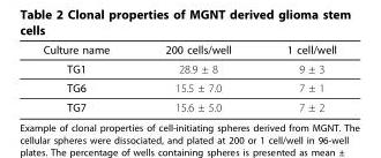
<table><thead><tr><td>Culture name</td><td>200 cells/well</td><td>1 cell/well</td></tr></thead><tbody><tr><td>TG1</td><td>28.9 ± 8</td><td>9 ± 3</td></tr><tr><td>TG6</td><td>15.5 ± 7.0</td><td>7 ± 1</td></tr><tr><td>TG7</td><td>15.6 ± 5.0</td><td>7 ± 2</td></tr></tbody></table>